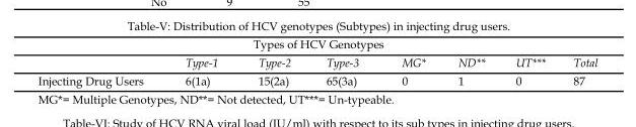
<table><thead><tr><td colspan="8">Types of HCV Genotypes</td></tr><tr><td></td><td>Type-1</td><td>Type-2</td><td>Type-3</td><td>MG*</td><td>ND**</td><td>UT***</td><td>Total</td></tr></thead><tbody><tr><td>Injecting Drug Users</td><td>6(1a)</td><td>15(2a)</td><td>65(3a)</td><td>0</td><td>1</td><td>0</td><td>87</td></tr></tbody></table>